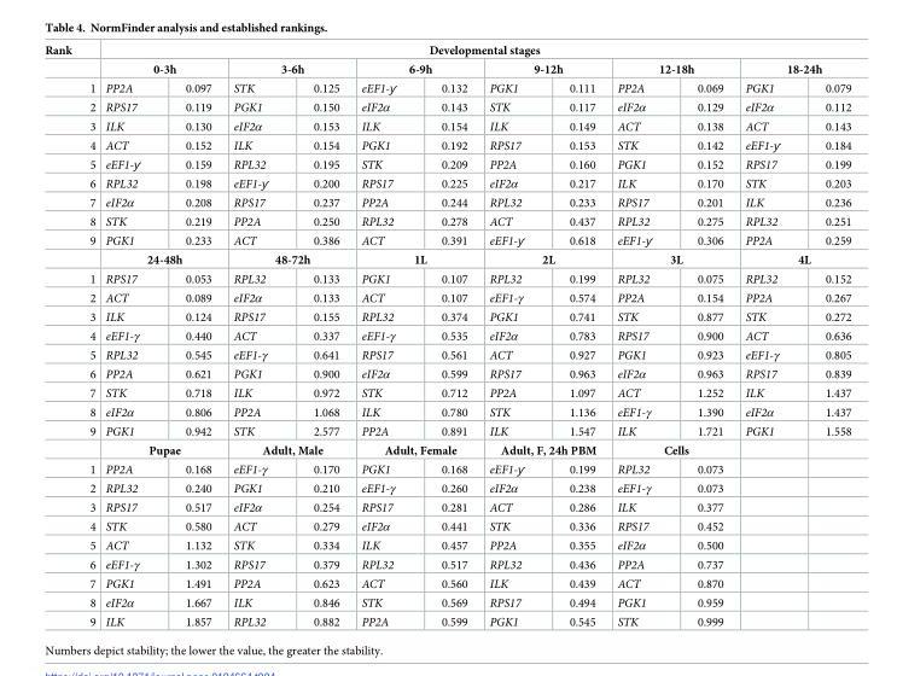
<table><thead><tr><td rowspan="3">Rank 1</td><td colspan="12">Developmental stages</td></tr><tr><td colspan="2">0-3h</td><td colspan="2">3-6h</td><td colspan="2">6-9h</td><td colspan="2">9-12h</td><td colspan="2">12-18h</td><td colspan="2">18-24h</td></tr><tr><td>PP2A</td><td>0.097</td><td>STK</td><td>0.125</td><td>eEF1-ƴ</td><td>0.132</td><td>PGK1</td><td>0.111</td><td>PP2A</td><td>0.069</td><td>PGK1</td><td>0.079</td></tr></thead><tbody><tr><td>2</td><td>RPS17</td><td>0.119</td><td>PGK1</td><td>0.150</td><td>eIF2α</td><td>0.143</td><td>STK</td><td>0.117</td><td>eIF2α</td><td>0.129</td><td>eIF2α</td><td>0.112</td></tr><tr><td>3</td><td>ILK</td><td>0.130</td><td>eIF2α</td><td>0.153</td><td>ILK</td><td>0.154</td><td>ILK</td><td>0.149</td><td>ACT</td><td>0.138</td><td>ACT</td><td>0.143</td></tr><tr><td>4</td><td>ACT</td><td>0.152</td><td>ILK</td><td>0.154</td><td>PGK1</td><td>0.192</td><td>RPS17</td><td>0.153</td><td>STK</td><td>0.142</td><td>eEF1-ƴ</td><td>0.184</td></tr><tr><td>5</td><td>eEF1-ƴ</td><td>0.159</td><td>RPL32</td><td>0.195</td><td>STK</td><td>0.209</td><td>PP2A</td><td>0.160</td><td>PGK1</td><td>0.152</td><td>RPS17</td><td>0.199</td></tr><tr><td>6</td><td>RPL32</td><td>0.198</td><td>eEF1-ƴ</td><td>0.200</td><td>RPS17</td><td>0.225</td><td>eIF2α</td><td>0.217</td><td>ILK</td><td>0.170</td><td>STK</td><td>0.203</td></tr><tr><td>7</td><td>eIF2α</td><td>0.208</td><td>RPS17</td><td>0.237</td><td>PP2A</td><td>0.244</td><td>RPL32</td><td>0.233</td><td>RPS17</td><td>0.201</td><td>ILK</td><td>0.236</td></tr><tr><td>8</td><td>STK</td><td>0.219</td><td>PP2A</td><td>0.250</td><td>RPL32</td><td>0.278</td><td>ACT</td><td>0.437</td><td>RPL32</td><td>0.275</td><td>RPL32</td><td>0.251</td></tr><tr><td rowspan="2">9</td><td>PGK1</td><td>0.233</td><td>ACT</td><td>0.386</td><td>ACT</td><td>0.391</td><td>eEF1-ƴ</td><td>0.618</td><td>eEF1-ƴ</td><td>0.306</td><td>PP2A</td><td>0.259</td></tr><tr><td colspan="2">24-48h</td><td colspan="2">48-72h</td><td colspan="2">1L</td><td colspan="2">2L</td><td colspan="2">3L</td><td colspan="2">4L</td></tr><tr><td>1</td><td>RPS17</td><td>0.053</td><td>RPL32</td><td>0.133</td><td>PGK1</td><td>0.107</td><td>RPL32</td><td>0.199</td><td>RPL32</td><td>0.075</td><td>RPL32</td><td>0.152</td></tr><tr><td>2</td><td>ACT</td><td>0.089</td><td>eIF2α</td><td>0.133</td><td>ACT</td><td>0.107</td><td>eEF1-γ</td><td>0.574</td><td>PP2A</td><td>0.154</td><td>PP2A</td><td>0.267</td></tr><tr><td>3</td><td>ILK</td><td>0.124</td><td>RPS17</td><td>0.155</td><td>RPL32</td><td>0.374</td><td>PGK1</td><td>0.741</td><td>STK</td><td>0.877</td><td>STK</td><td>0.272</td></tr><tr><td>4</td><td>eEF1-γ</td><td>0.440</td><td>ACT</td><td>0.337</td><td>eEF1-γ</td><td>0.535</td><td>eIF2α</td><td>0.783</td><td>RPS17</td><td>0.900</td><td>ACT</td><td>0.636</td></tr><tr><td>5</td><td>RPL32</td><td>0.545</td><td>eEF1-γ</td><td>0.641</td><td>RPS17</td><td>0.561</td><td>ACT</td><td>0.927</td><td>PGK1</td><td>0.923</td><td>eEF1-γ</td><td>0.805</td></tr><tr><td>6</td><td>PP2A</td><td>0.621</td><td>PGK1</td><td>0.900</td><td>eIF2α</td><td>0.599</td><td>RPS17</td><td>0.963</td><td>eIF2α</td><td>0.963</td><td>RPS17</td><td>0.839</td></tr><tr><td>7</td><td>STK</td><td>0.718</td><td>ILK</td><td>0.972</td><td>STK</td><td>0.712</td><td>PP2A</td><td>1.097</td><td>ACT</td><td>1.252</td><td>ILK</td><td>1.437</td></tr><tr><td>8</td><td>eIF2α</td><td>0.806</td><td>PP2A</td><td>1.068</td><td>ILK</td><td>0.780</td><td>STK</td><td>1.136</td><td>eEF1-γ</td><td>1.390</td><td>eIF2α</td><td>1.437</td></tr><tr><td rowspan="2">9</td><td>PGK1</td><td>0.942</td><td>STK</td><td>2.577</td><td>PP2A</td><td>0.891</td><td>ILK</td><td>1.547</td><td>ILK</td><td>1.721</td><td>PGK1</td><td>1.558</td></tr><tr><td colspan="2">Pupae</td><td colspan="2">Adult, Male</td><td colspan="2">Adult, Female</td><td colspan="2">Adult, F, 24h PBM</td><td colspan="2">Cells</td><td></td><td></td></tr><tr><td>1</td><td>PP2A</td><td>0.168</td><td>eEF1-γ</td><td>0.170</td><td>PGK1</td><td>0.168</td><td>eEF1-ƴ</td><td>0.199</td><td>RPL32</td><td>0.073</td><td></td><td></td></tr><tr><td>2</td><td>RPL32</td><td>0.240</td><td>PGK1</td><td>0.210</td><td>eEF1-γ</td><td>0.260</td><td>eIF2α</td><td>0.238</td><td>eEF1-γ</td><td>0.073</td><td></td><td></td></tr><tr><td>3</td><td>RPS17</td><td>0.517</td><td>eIF2α</td><td>0.254</td><td>RPS17</td><td>0.281</td><td>ACT</td><td>0.286</td><td>ILK</td><td>0.377</td><td></td><td></td></tr><tr><td>4</td><td>STK</td><td>0.580</td><td>ACT</td><td>0.279</td><td>eIF2α</td><td>0.441</td><td>STK</td><td>0.336</td><td>RPS17</td><td>0.452</td><td></td><td></td></tr><tr><td>5</td><td>ACT</td><td>1.132</td><td>STK</td><td>0.334</td><td>ILK</td><td>0.457</td><td>PP2A</td><td>0.355</td><td>eIF2α</td><td>0.500</td><td></td><td></td></tr><tr><td>6</td><td>eEF1-γ</td><td>1.302</td><td>RPS17</td><td>0.379</td><td>RPL32</td><td>0.517</td><td>RPL32</td><td>0.436</td><td>PP2A</td><td>0.737</td><td></td><td></td></tr><tr><td>7</td><td>PGK1</td><td>1.491</td><td>PP2A</td><td>0.623</td><td>ACT</td><td>0.560</td><td>ILK</td><td>0.439</td><td>ACT</td><td>0.870</td><td></td><td></td></tr><tr><td>8</td><td>eIF2α</td><td>1.667</td><td>ILK</td><td>0.846</td><td>STK</td><td>0.569</td><td>RPS17</td><td>0.494</td><td>PGK1</td><td>0.959</td><td></td><td></td></tr><tr><td>9</td><td>ILK</td><td>1.857</td><td>RPL32</td><td>0.882</td><td>PP2A</td><td>0.599</td><td>PGK1</td><td>0.545</td><td>STK</td><td>0.999</td><td></td><td></td></tr></tbody></table>